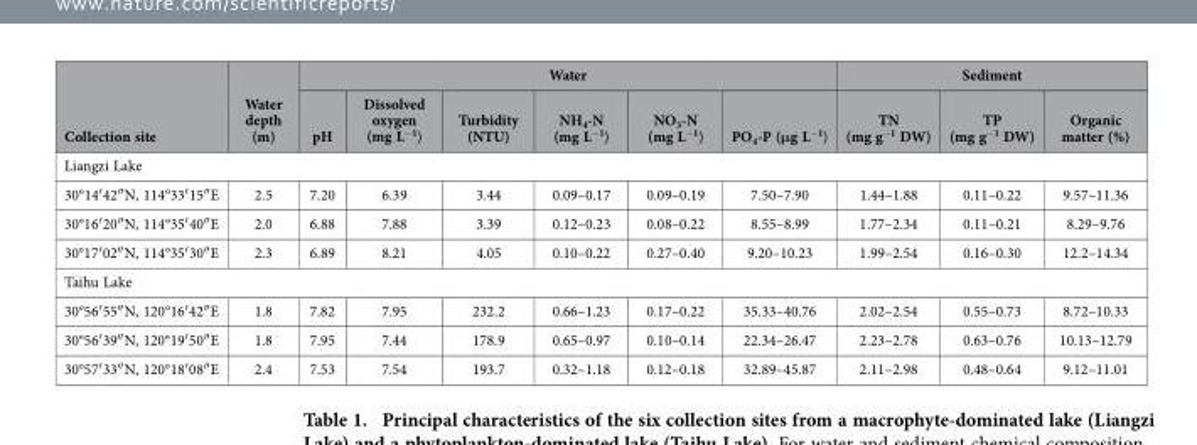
<table><thead><tr><td rowspan="2">Collection site</td><td rowspan="2">Water depth (m)</td><td colspan="6">Water</td><td colspan="3">Sediment</td></tr><tr><td>pH</td><td>Dissolved oxygen (mg L<sup>−1</sup>)</td><td>Turbidity (NTU)</td><td>NH<sub>4</sub>-N (mg L<sup>−1</sup>)</td><td>NO<sub>3</sub>-N (mg L<sup>−1</sup>)</td><td>PO<sub>4</sub>-P (μg L<sup>−1</sup>)</td><td>TN (mg g<sup>−1</sup> DW)</td><td>TP (mg g<sup>−1</sup> DW)</td><td>Organic matter (%)</td></tr></thead><tbody><tr><td colspan="11">Liangzi Lake</td></tr><tr><td>30°14′ 42″ N, 114°33′ 15″ E</td><td>2.5</td><td>7.20</td><td>6.39</td><td>3.44</td><td>0.09–0.17</td><td>0.09–0.19</td><td>7.50–7.90</td><td>1.44–1.88</td><td>0.11–0.22</td><td>9.57–11.36</td></tr><tr><td>30°16′ 20″ N, 114°35′ 40″ E</td><td>2.0</td><td>6.88</td><td>7.88</td><td>3.39</td><td>0.12–0.23</td><td>0.08–0.22</td><td>8.55–8.99</td><td>1.77–2.34</td><td>0.11–0.21</td><td>8.29–9.76</td></tr><tr><td>30°17′ 02″ N, 114°35′ 30″ E</td><td>2.3</td><td>6.89</td><td>8.21</td><td>4.05</td><td>0.10–0.22</td><td>0.27–0.40</td><td>9.20–10.23</td><td>1.99–2.54</td><td>0.16–0.30</td><td>12.2–14.34</td></tr><tr><td colspan="11">Taihu Lake</td></tr><tr><td>30°56′ 55″ N, 120°16′ 42″ E</td><td>1.8</td><td>7.82</td><td>7.95</td><td>232.2</td><td>0.66–1.23</td><td>0.17–0.22</td><td>35.33–40.76</td><td>2.02–2.54</td><td>0.55–0.73</td><td>8.72–10.33</td></tr><tr><td>30°56′ 39″ N, 120°19′ 50″ E</td><td>1.8</td><td>7.95</td><td>7.44</td><td>178.9</td><td>0.65–0.97</td><td>0.10–0.14</td><td>22.34–26.47</td><td>2.23–2.78</td><td>0.63–0.76</td><td>10.13–12.79</td></tr><tr><td>30°57′ 33″ N, 120°18′ 08″ E</td><td>2.4</td><td>7.53</td><td>7.54</td><td>193.7</td><td>0.32–1.18</td><td>0.12–0.18</td><td>32.89–45.87</td><td>2.11–2.98</td><td>0.48–0.64</td><td>9.12–11.01</td></tr></tbody></table>